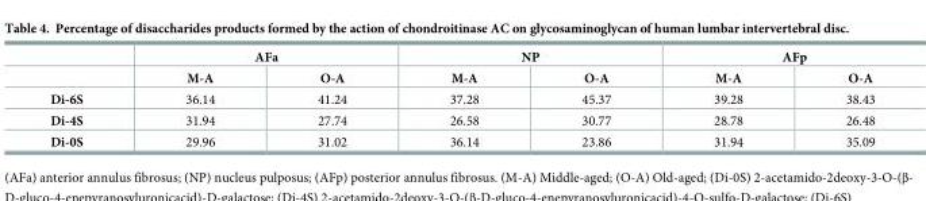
<table><thead><tr><td rowspan="2"></td><td colspan="2">AFa</td><td colspan="2">NP</td><td colspan="2">AFp</td></tr><tr><td>M-A</td><td>O-A</td><td>M-A</td><td>O-A</td><td>M-A</td><td>O-A</td></tr></thead><tbody><tr><td>Di-6S</td><td>36.14</td><td>41.24</td><td>37.28</td><td>45.37</td><td>39.28</td><td>38.43</td></tr><tr><td>Di-4S</td><td>31.94</td><td>27.74</td><td>26.58</td><td>30.77</td><td>28.78</td><td>26.48</td></tr><tr><td>Di-0S</td><td>29.96</td><td>31.02</td><td>36.14</td><td>23.86</td><td>31.94</td><td>35.09</td></tr></tbody></table>